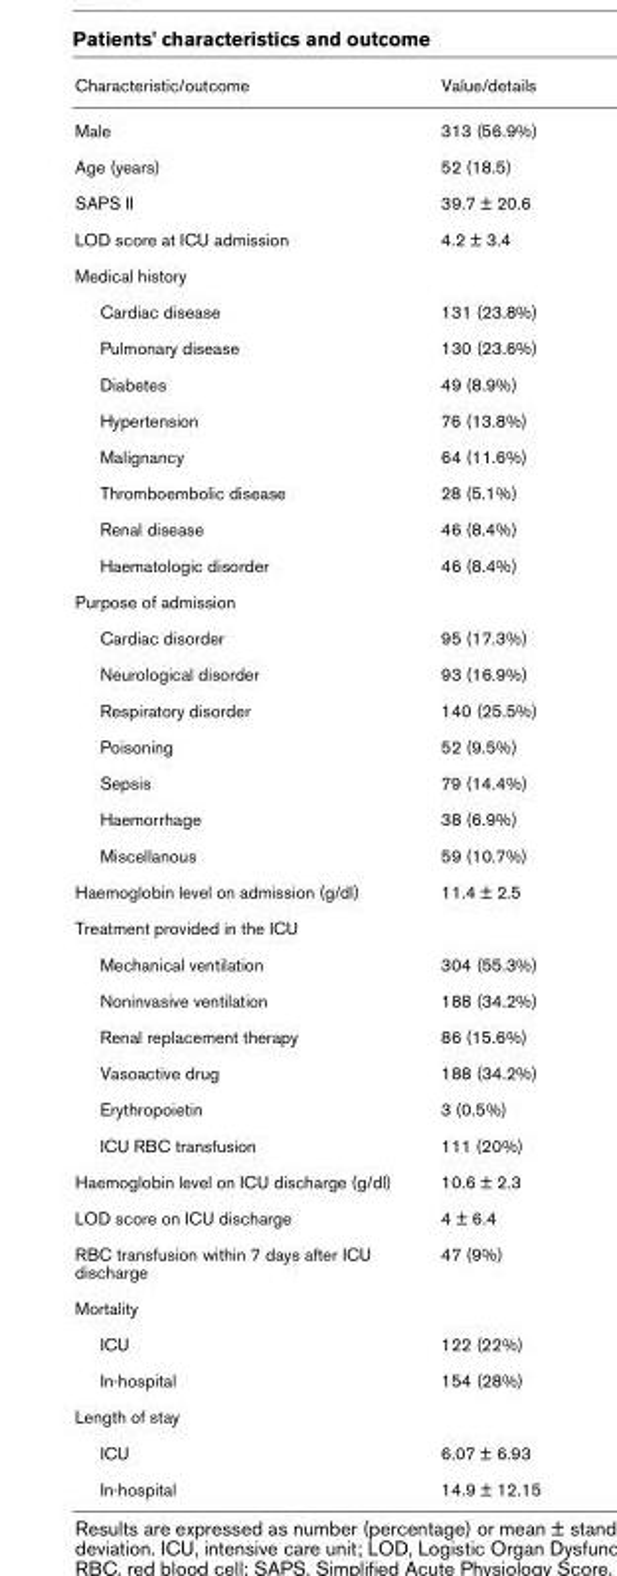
<table><thead><tr><td>Characteristic/outcome</td><td>Value/details</td></tr></thead><tbody><tr><td>Male</td><td>313 (56.9%)</td></tr><tr><td>Age (years)</td><td>52 (18.5)</td></tr><tr><td>SAPS II</td><td>39.7 ± 20.6</td></tr><tr><td>LOD score at ICU admission</td><td>4.2 ± 3.4</td></tr><tr><td colspan="2">Medical history</td></tr><tr><td>Cardiac disease</td><td>131 (23.8%)</td></tr><tr><td>Pulmonary disease</td><td>130 (23.6%)</td></tr><tr><td>Diabetes</td><td>49 (8.9%)</td></tr><tr><td>Hypertension</td><td>76 (13.8%)</td></tr><tr><td>Malignancy</td><td>64 (11.6%)</td></tr><tr><td>Thromboembolic disease</td><td>28 (5.1%)</td></tr><tr><td>Renal disease</td><td>46 (8.4%)</td></tr><tr><td>Haematologic disorder</td><td>46 (8.4%)</td></tr><tr><td colspan="2">Purpose of admission</td></tr><tr><td>Cardiac disorder</td><td>95 (17.3%)</td></tr><tr><td>Neurological disorder</td><td>93 (16.9%)</td></tr><tr><td>Respiratory disorder</td><td>140 (25.5%)</td></tr><tr><td>Poisoning</td><td>52 (9.5%)</td></tr><tr><td>Sepsis</td><td>79 (14.4%)</td></tr><tr><td>Haemorrhage</td><td>38 (6.9%)</td></tr><tr><td>Miscellanous</td><td>59 (10.7%)</td></tr><tr><td>Haemoglobin level on admission (g/dl)</td><td>11.4 ± 2.5</td></tr><tr><td colspan="2">Treatment provided in the ICU</td></tr><tr><td>Mechanical ventilation</td><td>304 (55.3%)</td></tr><tr><td>Noninvasive ventilation</td><td>188 (34.2%)</td></tr><tr><td>Renal replacement therapy</td><td>86 (15.6%)</td></tr><tr><td>Vasoactive drug</td><td>188 (34.2%)</td></tr><tr><td>Erythropoietin</td><td>3 (0.5%)</td></tr><tr><td>ICU RBC transfusion</td><td>111 (20%)</td></tr><tr><td>Haemoglobin level on ICU discharge (g/dl)</td><td>10.6 ± 2.3</td></tr><tr><td>LOD score on ICU discharge</td><td>4 ± 6.4</td></tr><tr><td>RBC transfusion within 7 days after ICU discharge</td><td>47 (9%)</td></tr><tr><td colspan="2">Mortality</td></tr><tr><td>ICU</td><td>122 (22%)</td></tr><tr><td>In-hospital</td><td>154 (28%)</td></tr><tr><td colspan="2">Length of stay</td></tr><tr><td>ICU</td><td>6.07 ± 6.93</td></tr><tr><td>In-hospital</td><td>14.9 ± 12.15</td></tr></tbody></table>